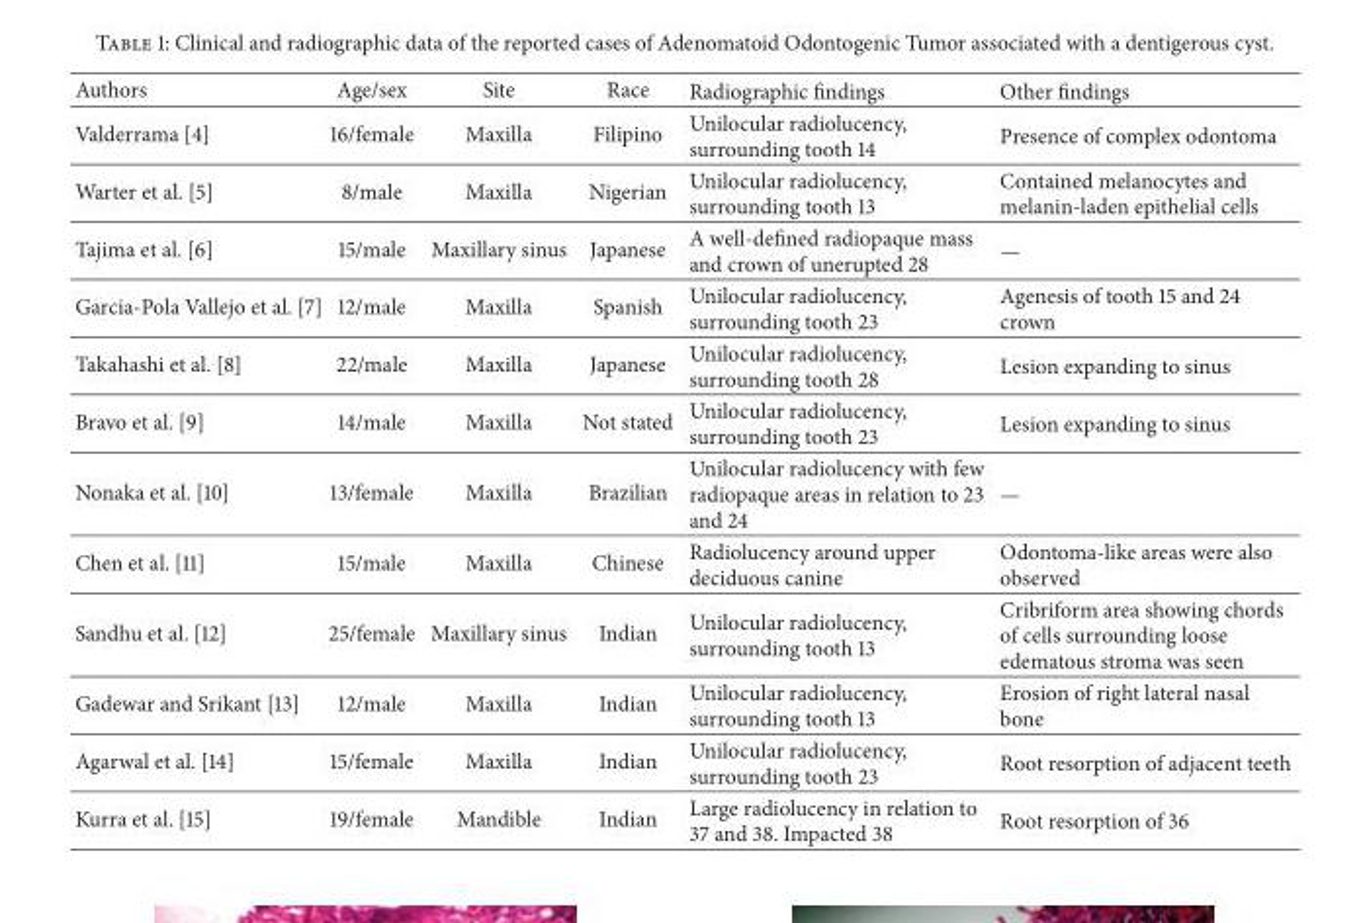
<table><thead><tr><td>Authors</td><td>Age/sex</td><td>Site</td><td>Race</td><td>Radiographic findings</td><td>Other findings</td></tr></thead><tbody><tr><td>Valderrama [4]</td><td>16/female</td><td>Maxilla</td><td>Filipino</td><td>Unilocular radiolucency, surrounding tooth 14</td><td>Presence of complex odontoma</td></tr><tr><td>Warter et al. [5]</td><td>8/male</td><td>Maxilla</td><td>Nigerian</td><td>Unilocular radiolucency, surrounding tooth 13</td><td>Contained melanocytes and melanin-laden epithelial cells</td></tr><tr><td>Tajima et al. [6]</td><td>15/male</td><td>Maxillary sinus</td><td>Japanese</td><td>A well-defined radiopaque mass and crown of unerupted 28</td><td>—</td></tr><tr><td>Garcia-Pola Vallejo et al. [7]</td><td>12/male</td><td>Maxilla</td><td>Spanish</td><td>Unilocular radiolucency, surrounding tooth 23</td><td>Agenesis of tooth 15 and 24 crown</td></tr><tr><td>Takahashi et al. [8]</td><td>22/male</td><td>Maxilla</td><td>Japanese</td><td>Unilocular radiolucency, surrounding tooth 28</td><td>Lesion expanding to sinus</td></tr><tr><td>Bravo et al. [9]</td><td>14/male</td><td>Maxilla</td><td>Not stated</td><td>Unilocular radiolucency, surrounding tooth 23</td><td>Lesion expanding to sinus</td></tr><tr><td>Nonaka et al. [10]</td><td>13/female</td><td>Maxilla</td><td>Brazilian</td><td>Unilocular radiolucency with few radiopaque areas in relation to 23 and 24</td><td>—</td></tr><tr><td>Chen et al. [11]</td><td>15/male</td><td>Maxilla</td><td>Chinese</td><td>Radiolucency around upper deciduous canine</td><td>Odontoma-like areas were also observed</td></tr><tr><td>Sandhu et al. [12]</td><td>25/female</td><td>Maxillary sinus</td><td>Indian</td><td>Unilocular radiolucency, surrounding tooth 13</td><td>Cribriform area showing chords of cells surrounding loose edematous stroma was seen</td></tr><tr><td>Gadewar and Srikant [13]</td><td>12/male</td><td>Maxilla</td><td>Indian</td><td>Unilocular radiolucency, surrounding tooth 13</td><td>Erosion of right lateral nasal bone</td></tr><tr><td>Agarwal et al. [14]</td><td>15/female</td><td>Maxilla</td><td>Indian</td><td>Unilocular radiolucency, surrounding tooth 23</td><td>Root resorption of adjacent teeth</td></tr><tr><td>Kurra et al. [15]</td><td>19/female</td><td>Mandible</td><td>Indian</td><td>Large radiolucency in relation to 37 and 38. Impacted 38</td><td>Root resorption of 36</td></tr></tbody></table>